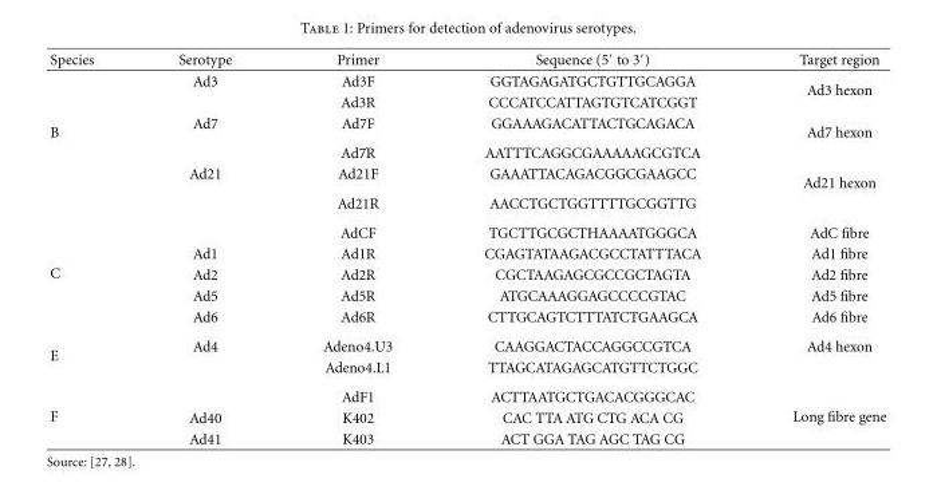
<table><thead><tr><td>Species</td><td>Serotype</td><td>Primer</td><td>Sequence (5′ to 3′)</td><td>Target region</td></tr></thead><tbody><tr><td rowspan="6">B</td><td>Ad3</td><td>Ad3F</td><td>GGTAGAGATGCTGTTGCAGGA</td><td rowspan="2">Ad3 hexon</td></tr><tr><td></td><td>Ad3R</td><td>CCCATCCATTAGTGTCATCGGT</td></tr><tr><td>Ad7</td><td>Ad7F</td><td>GGAAAGACATTACTGCAGACA</td><td rowspan="2">Ad7 hexon</td></tr><tr><td></td><td>Ad7R</td><td>AATTTCAGGCGAAAAAGCGTCA</td></tr><tr><td>Ad21</td><td>Ad21F</td><td>GAAATTACAGACGGCGAAGCC</td><td rowspan="2">Ad21 hexon</td></tr><tr><td></td><td>Ad21R</td><td>AACCTGCTGGTTTTGCGGTTG</td></tr><tr><td rowspan="5">C</td><td></td><td>AdCF</td><td>TGCTTGCGCTHAAAATGGGCA</td><td>AdC fibre</td></tr><tr><td>Ad1</td><td>Ad1R</td><td>CGAGTATAAGACGCCTATTTACA</td><td>Ad1 fibre</td></tr><tr><td>Ad2</td><td>Ad2R</td><td>CGCTAAGAGCGCCGCTAGTA</td><td>Ad2 fibre</td></tr><tr><td>Ad5</td><td>Ad5R</td><td>ATGCAAAGGAGCCCCGTAC</td><td>Ad5 fibre</td></tr><tr><td>Ad6</td><td>Ad6R</td><td>CTTGCAGTCTTTATCTGAAGCA</td><td>Ad6 fibre</td></tr><tr><td rowspan="2">E</td><td>Ad4</td><td>Adeno4.U3</td><td>CAAGGACTACCAGGCCGTCA</td><td>Ad4 hexon</td></tr><tr><td></td><td>Adeno4.L1</td><td>TTAGCATAGAGCATGTTCTGGC</td><td></td></tr><tr><td rowspan="3">F</td><td></td><td>AdF1</td><td>ACTTAATGCTGACACGGGCAC</td><td rowspan="3">Long fibre gene</td></tr><tr><td>Ad40</td><td>K402</td><td>CAC TTA ATG CTG ACA CG</td></tr><tr><td>Ad41</td><td>K403</td><td>ACT GGA TAG AGC TAG CG</td></tr></tbody></table>